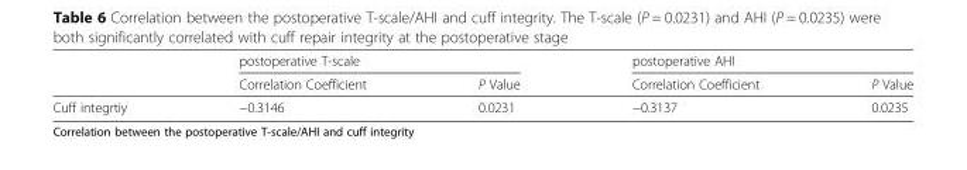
<table><thead><tr><td rowspan="2"></td><td colspan="2">postoperative T-scale</td><td colspan="2">postoperative AHI</td></tr><tr><td>Correlation Coefficient</td><td>P Value</td><td>Correlation Coefficient</td><td>P Value</td></tr></thead><tbody><tr><td>Cuff integrtiy</td><td>−0.3146</td><td>0.0231</td><td>−0.3137</td><td>0.0235</td></tr></tbody></table>